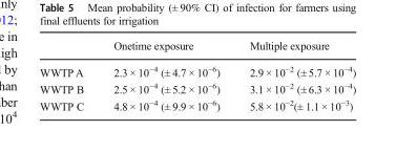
<table><thead><tr><td></td><td>Onetime exposure</td><td>Multiple exposure</td></tr></thead><tbody><tr><td>WWTP A</td><td>2.3 × 10<sup>−4</sup> (± 4.7 × 10<sup>−6</sup>)</td><td>2.9 × 10<sup>−2</sup> (± 5.7 × 10<sup>−4</sup>)</td></tr><tr><td>WWTP B</td><td>2.5 × 10<sup>−4</sup> (± 5.2 × 10<sup>−6</sup>)</td><td>3.1 × 10<sup>−2</sup> (± 6.3 × 10<sup>−4</sup>)</td></tr><tr><td>WWTP C</td><td>4.8 × 10<sup>−4</sup> (± 9.9 × 10<sup>−6</sup>)</td><td>5.8 × 10<sup>−2</sup>(± 1.1 × 10<sup>−3</sup>)</td></tr></tbody></table>